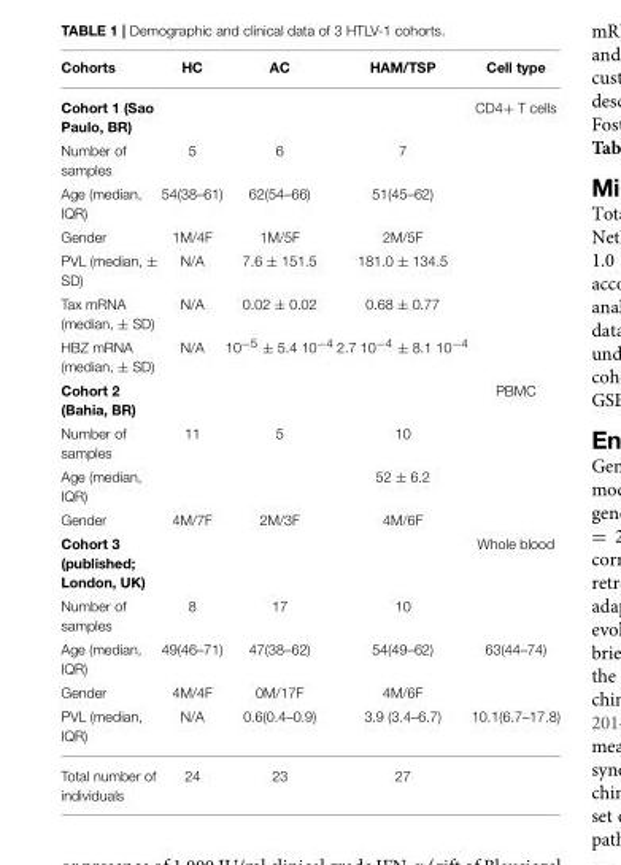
<table><thead><tr><td>Cohorts</td><td>HC</td><td>AC</td><td>HAM/TSP</td><td>Cell type</td></tr></thead><tbody><tr><td>Cohort 1 (Sao Paulo, BR)</td><td></td><td></td><td></td><td>CD4+ T cells</td></tr><tr><td>Number of samples</td><td>5</td><td>6</td><td>7</td><td></td></tr><tr><td>Age (median, IQR)</td><td>54(38–61)</td><td>62(54–66)</td><td>51(45–62)</td><td></td></tr><tr><td>Gender</td><td>1M/4F</td><td>1M/5F</td><td>2M/5F</td><td></td></tr><tr><td>PVL (median, ± SD)</td><td>N/A</td><td>7.6 ± 151.5</td><td>181.0 ± 134.5</td><td></td></tr><tr><td>Tax mRNA (median, ± SD)</td><td>N/A</td><td>0.02 ± 0.02</td><td>0.68 ± 0.77</td><td></td></tr><tr><td>HBZ mRNA (median, ± SD)</td><td>N/A</td><td>10<sup>−5</sup> ± 5.4 10<sup>−4</sup></td><td>2.7 10<sup>−4</sup> ± 8.1 10<sup>−4</sup></td><td></td></tr><tr><td>Cohort 2 (Bahia, BR)</td><td></td><td></td><td></td><td>PBMC</td></tr><tr><td>Number of samples</td><td>11</td><td>5</td><td>10</td><td></td></tr><tr><td>Age (median, IQR)</td><td></td><td></td><td>52 ± 6.2</td><td></td></tr><tr><td>Gender</td><td>4M/7F</td><td>2M/3F</td><td>4M/6F</td><td></td></tr><tr><td>Cohort 3 (published; London, UK)</td><td></td><td></td><td></td><td>Whole blood</td></tr><tr><td>Number of samples</td><td>8</td><td>17</td><td>10</td><td></td></tr><tr><td>Age (median, IQR)</td><td>49(46–71)</td><td>47(38–62)</td><td>54(49–62)</td><td>63(44–74)</td></tr><tr><td>Gender</td><td>4M/4F</td><td>0M/17F</td><td>4M/6F</td><td></td></tr><tr><td>PVL (median, IQR)</td><td>N/A</td><td>0.6(0.4–0.9)</td><td>3.9 (3.4–6.7)</td><td>10.1(6.7–17.8)</td></tr><tr><td>Total number of individuals</td><td>24</td><td>23</td><td>27</td><td></td></tr></tbody></table>